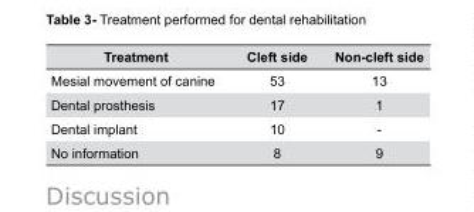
<table><thead><tr><td>Treatment</td><td>Cleft side</td><td>Non-cleft side</td></tr></thead><tbody><tr><td>Mesial movement of canine</td><td>53</td><td>13</td></tr><tr><td>Dental prosthesis</td><td>17</td><td>1</td></tr><tr><td>Dental implant</td><td>10</td><td>-</td></tr><tr><td>No information</td><td>8</td><td>9</td></tr></tbody></table>